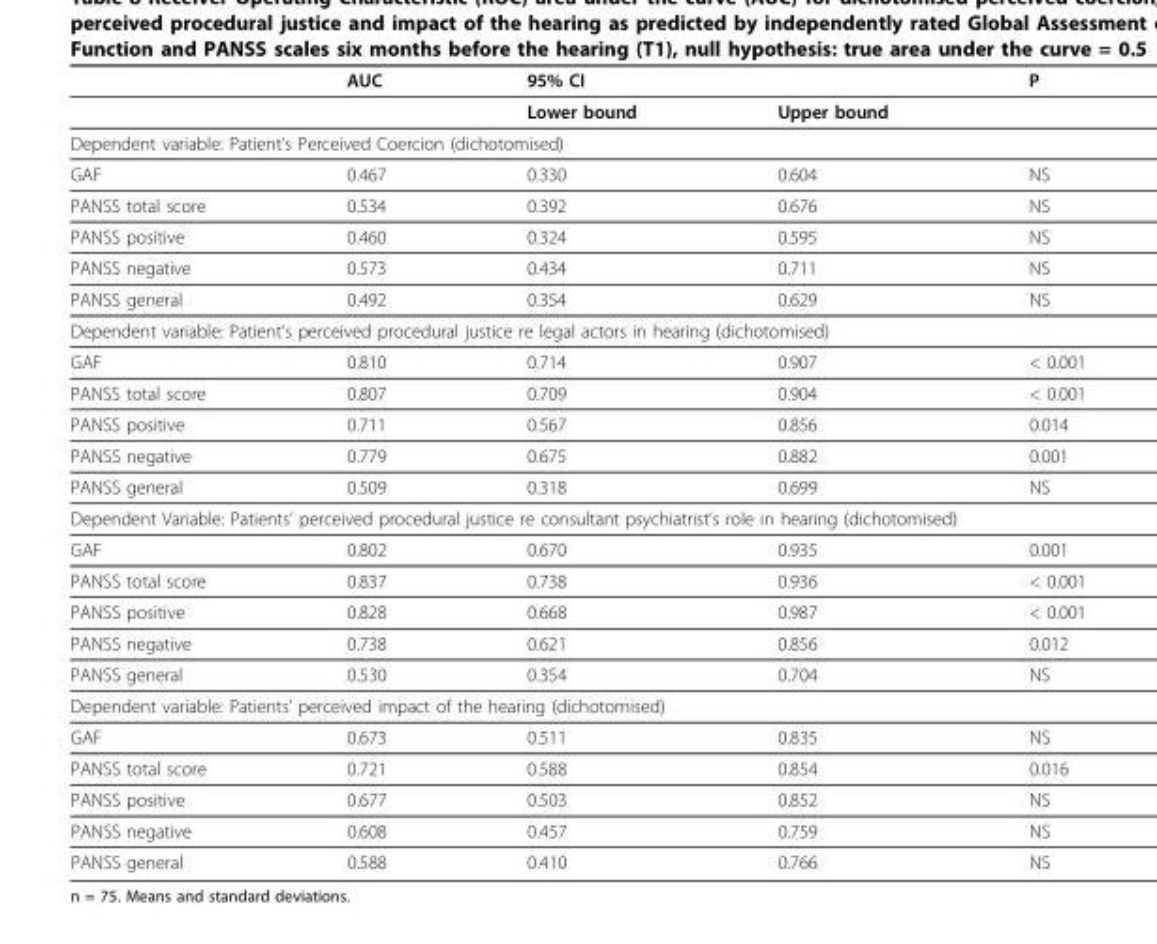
<table><thead><tr><td></td><td>AUC</td><td>95% CI</td><td></td><td>P</td></tr></thead><tbody><tr><td></td><td></td><td>Lower bound</td><td>Upper bound</td><td></td></tr><tr><td colspan="5">Dependent variable: Patient’s Perceived Coercion (dichotomised)</td></tr><tr><td>GAF</td><td>0.467</td><td>0.330</td><td>0.604</td><td>NS</td></tr><tr><td>PANSS total score</td><td>0.534</td><td>0.392</td><td>0.676</td><td>NS</td></tr><tr><td>PANSS positive</td><td>0.460</td><td>0.324</td><td>0.595</td><td>NS</td></tr><tr><td>PANSS negative</td><td>0.573</td><td>0.434</td><td>0.711</td><td>NS</td></tr><tr><td>PANSS general</td><td>0.492</td><td>0.354</td><td>0.629</td><td>NS</td></tr><tr><td colspan="5">Dependent variable: Patient’s perceived procedural justice re legal actors in hearing (dichotomised)</td></tr><tr><td>GAF</td><td>0.810</td><td>0.714</td><td>0.907</td><td>&lt; 0.001</td></tr><tr><td>PANSS total score</td><td>0.807</td><td>0.709</td><td>0.904</td><td>&lt; 0.001</td></tr><tr><td>PANSS positive</td><td>0.711</td><td>0.567</td><td>0.856</td><td>0.014</td></tr><tr><td>PANSS negative</td><td>0.779</td><td>0.675</td><td>0.882</td><td>0.001</td></tr><tr><td>PANSS general</td><td>0.509</td><td>0.318</td><td>0.699</td><td>NS</td></tr><tr><td colspan="5">Dependent Variable: Patients’ perceived procedural justice re consultant psychiatrist’s role in hearing (dichotomised)</td></tr><tr><td>GAF</td><td>0.802</td><td>0.670</td><td>0.935</td><td>0.001</td></tr><tr><td>PANSS total score</td><td>0.837</td><td>0.738</td><td>0.936</td><td>&lt; 0.001</td></tr><tr><td>PANSS positive</td><td>0.828</td><td>0.668</td><td>0.987</td><td>&lt; 0.001</td></tr><tr><td>PANSS negative</td><td>0.738</td><td>0.621</td><td>0.856</td><td>0.012</td></tr><tr><td>PANSS general</td><td>0.530</td><td>0.354</td><td>0.704</td><td>NS</td></tr><tr><td colspan="5">Dependent variable: Patients’ perceived impact of the hearing (dichotomised)</td></tr><tr><td>GAF</td><td>0.673</td><td>0.511</td><td>0.835</td><td>NS</td></tr><tr><td>PANSS total score</td><td>0.721</td><td>0.588</td><td>0.854</td><td>0.016</td></tr><tr><td>PANSS positive</td><td>0.677</td><td>0.503</td><td>0.852</td><td>NS</td></tr><tr><td>PANSS negative</td><td>0.608</td><td>0.457</td><td>0.759</td><td>NS</td></tr><tr><td>PANSS general</td><td>0.588</td><td>0.410</td><td>0.766</td><td>NS</td></tr></tbody></table>